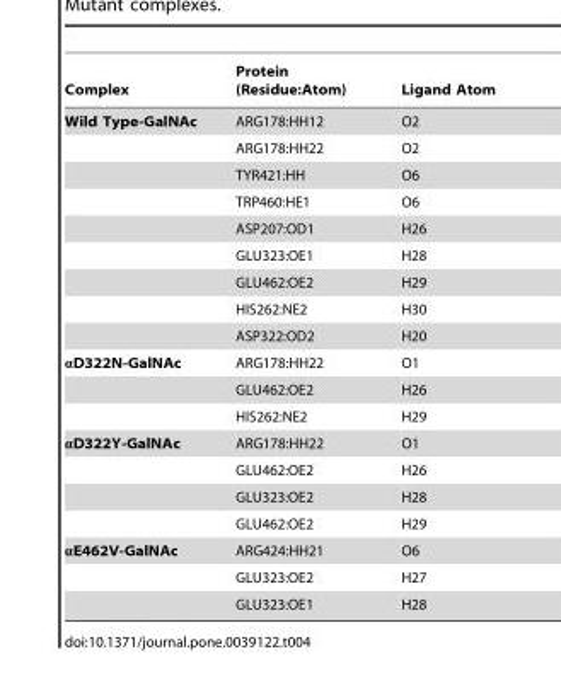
<table><thead><tr><td>Complex</td><td>Protein (Residue:Atom)</td><td>Ligand Atom</td></tr></thead><tbody><tr><td rowspan="9">Wild Type-GalNAc</td><td>ARG178:HH12</td><td>O2</td></tr><tr><td>ARG178:HH22</td><td>O2</td></tr><tr><td>TYR421:HH</td><td>O6</td></tr><tr><td>TRP460:HE1</td><td>O6</td></tr><tr><td>ASP207:OD1</td><td>H26</td></tr><tr><td>GLU323:OE1</td><td>H28</td></tr><tr><td>GLU462:OE2</td><td>H29</td></tr><tr><td>HIS262:NE2</td><td>H30</td></tr><tr><td>ASP322:OD2</td><td>H20</td></tr><tr><td rowspan="3">αD322N-GalNAc</td><td>ARG178:HH22</td><td>O1</td></tr><tr><td>GLU462:OE2</td><td>H26</td></tr><tr><td>HIS262:NE2</td><td>H29</td></tr><tr><td rowspan="4">αD322Y-GalNAc</td><td>ARG178:HH22</td><td>O1</td></tr><tr><td>GLU462:OE2</td><td>H26</td></tr><tr><td>GLU323:OE2</td><td>H28</td></tr><tr><td>GLU462:OE2</td><td>H29</td></tr><tr><td rowspan="3">αE462V-GalNAc</td><td>ARG424:HH21</td><td>O6</td></tr><tr><td>GLU323:OE2</td><td>H27</td></tr><tr><td>GLU323:OE1</td><td>H28</td></tr></tbody></table>